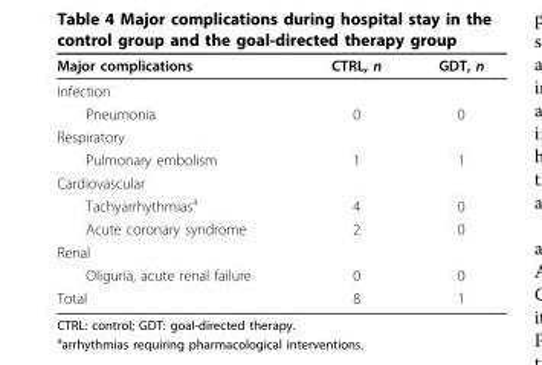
<table><thead><tr><td>Major complications</td><td>CTRL, n</td><td>GDT, n</td></tr></thead><tbody><tr><td colspan="3">Infection</td></tr><tr><td>Pneumonia</td><td>0</td><td>0</td></tr><tr><td colspan="3">Respiratory</td></tr><tr><td>Pulmonary embolism</td><td>1</td><td>1</td></tr><tr><td colspan="3">Cardiovascular</td></tr><tr><td>Tachyarrhythmias<sup>a</sup></td><td>4</td><td>0</td></tr><tr><td>Acute coronary syndrome</td><td>2</td><td>0</td></tr><tr><td colspan="3">Renal</td></tr><tr><td>Oliguria, acute renal failure</td><td>0</td><td>0</td></tr><tr><td>Total</td><td>8</td><td>1</td></tr></tbody></table>